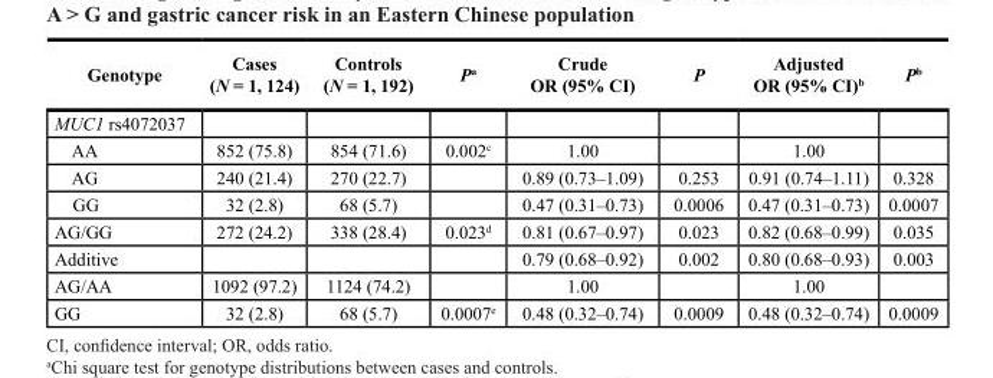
<table><thead><tr><td>Genotype</td><td>Cases (N = 1, 124)</td><td>Controls (N = 1, 192)</td><td>P<sup>a</sup></td><td>Crude OR (95% CI)</td><td>P</td><td>Adjusted OR (95% CI)<sup>b</sup></td><td>P<sup>b</sup></td></tr></thead><tbody><tr><td colspan="8">MUC1 rs4072037</td></tr><tr><td>AA</td><td>852 (75.8)</td><td>854 (71.6)</td><td>0.002<sup>c</sup></td><td>1.00</td><td></td><td>1.00</td><td></td></tr><tr><td>AG</td><td>240 (21.4)</td><td>270 (22.7)</td><td></td><td>0.89 (0.73–1.09)</td><td>0.253</td><td>0.91 (0.74–1.11)</td><td>0.328</td></tr><tr><td>GG</td><td>32 (2.8)</td><td>68 (5.7)</td><td></td><td>0.47 (0.31–0.73)</td><td>0.0006</td><td>0.47 (0.31–0.73)</td><td>0.0007</td></tr><tr><td>AG/GG</td><td>272 (24.2)</td><td>338 (28.4)</td><td>0.023<sup>d</sup></td><td>0.81 (0.67–0.97)</td><td>0.023</td><td>0.82 (0.68–0.99)</td><td>0.035</td></tr><tr><td>Additive</td><td></td><td></td><td></td><td>0.79 (0.68–0.92)</td><td>0.002</td><td>0.80 (0.68–0.93)</td><td>0.003</td></tr><tr><td>AG/AA</td><td>1092 (97.2)</td><td>1124 (74.2)</td><td></td><td>1.00</td><td></td><td>1.00</td><td></td></tr><tr><td>GG</td><td>32 (2.8)</td><td>68 (5.7)</td><td>0.0007<sup>e</sup></td><td>0.48 (0.32–0.74)</td><td>0.0009</td><td>0.48 (0.32–0.74)</td><td>0.0009</td></tr></tbody></table>